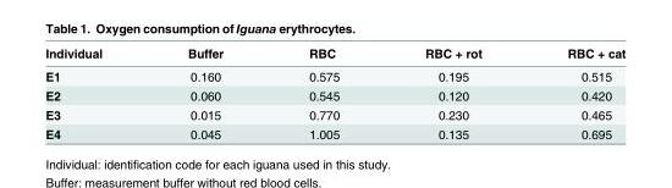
<table><thead><tr><td>Individual</td><td>Buffer</td><td>RBC</td><td>RBC + rot</td><td>RBC + cat</td></tr></thead><tbody><tr><td>E1</td><td>0.160</td><td>0.575</td><td>0.195</td><td>0.515</td></tr><tr><td>E2</td><td>0.060</td><td>0.545</td><td>0.120</td><td>0.420</td></tr><tr><td>E3</td><td>0.015</td><td>0.770</td><td>0.230</td><td>0.465</td></tr><tr><td>E4</td><td>0.045</td><td>1.005</td><td>0.135</td><td>0.695</td></tr></tbody></table>